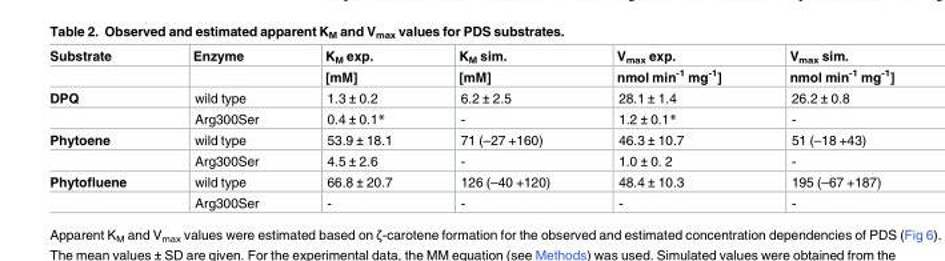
<table><thead><tr><td rowspan="2">Substrate</td><td rowspan="2">Enzyme</td><td rowspan="2">K<sub>M</sub> exp. [mM]</td><td rowspan="2">K<sub>M</sub> sim. [mM]</td><td rowspan="2">V<sub>max</sub> exp. nmol min<sup>-1</sup> mg<sup>-1</sup>]</td><td rowspan="2">V<sub>max</sub> sim. nmol min<sup>-1</sup> mg<sup>-1</sup>]</td></tr><tr></tr></thead><tbody><tr><td rowspan="2">DPQ</td><td>wild type</td><td>1.3 ± 0.2</td><td>6.2 ± 2.5</td><td>28.1 ± 1.4</td><td>26.2 ± 0.8</td></tr><tr><td>Arg300Ser</td><td>0.4 ± 0.1*</td><td>-</td><td>1.2 ± 0.1*</td><td>-</td></tr><tr><td rowspan="2">Phytoene</td><td>wild type</td><td>53.9 ± 18.1</td><td>71 (–27 +160)</td><td>46.3 ± 10.7</td><td>51 (–18 +43)</td></tr><tr><td>Arg300Ser</td><td>4.5 ± 2.6</td><td>-</td><td>1.0 ± 0. 2</td><td>-</td></tr><tr><td rowspan="2">Phytofluene</td><td>wild type</td><td>66.8 ± 20.7</td><td>126 (–40 +120)</td><td>48.4 ± 10.3</td><td>195 (–67 +187)</td></tr><tr><td>Arg300Ser</td><td>-</td><td>-</td><td>-</td><td>-</td></tr></tbody></table>